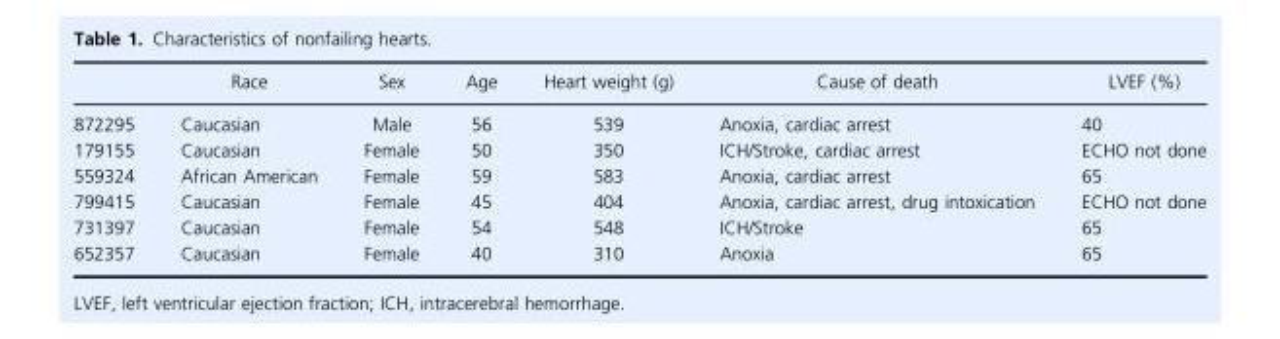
<table><thead><tr><td></td><td>Race</td><td>Sex</td><td>Age</td><td>Heart weight (g)</td><td>Cause of death</td><td>LVEF (%)</td></tr></thead><tbody><tr><td>872295</td><td>Caucasian</td><td>Male</td><td>56</td><td>539</td><td>Anoxia, cardiac arrest</td><td>40</td></tr><tr><td>179155</td><td>Caucasian</td><td>Female</td><td>50</td><td>350</td><td>ICH/Stroke, cardiac arrest</td><td>ECHO not done</td></tr><tr><td>559324</td><td>African American</td><td>Female</td><td>59</td><td>583</td><td>Anoxia, cardiac arrest</td><td>65</td></tr><tr><td>799415</td><td>Caucasian</td><td>Female</td><td>45</td><td>404</td><td>Anoxia, cardiac arrest, drug intoxication</td><td>ECHO not done</td></tr><tr><td>731397</td><td>Caucasian</td><td>Female</td><td>54</td><td>548</td><td>ICH/Stroke</td><td>65</td></tr><tr><td>652357</td><td>Caucasian</td><td>Female</td><td>40</td><td>310</td><td>Anoxia</td><td>65</td></tr></tbody></table>